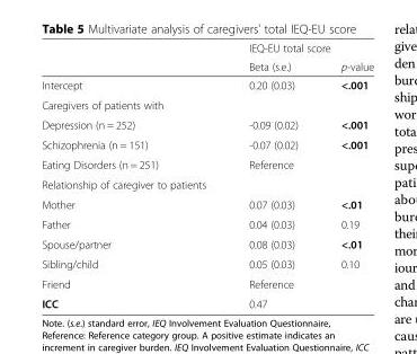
<table><thead><tr><td rowspan="2"></td><td colspan="2">IEQ-EU total score</td></tr><tr><td>Beta (s.e.)</td><td>p-value</td></tr></thead><tbody><tr><td>Intercept</td><td>0.20 (0.03)</td><td>&lt;.001</td></tr><tr><td colspan="3">Caregivers of patients with</td></tr><tr><td>Depression (n = 252)</td><td>-0.09 (0.02)</td><td>&lt;.001</td></tr><tr><td>Schizophrenia (n = 151)</td><td>-0.07 (0.02)</td><td>&lt;.001</td></tr><tr><td>Eating Disorders (n = 251)</td><td>Reference</td><td></td></tr><tr><td colspan="3">Relationship of caregiver to patients</td></tr><tr><td>Mother</td><td>0.07 (0.03)</td><td>&lt;.01</td></tr><tr><td>Father</td><td>0.04 (0.03)</td><td>0.19</td></tr><tr><td>Spouse/partner</td><td>0.08 (0.03)</td><td>&lt;.01</td></tr><tr><td>Sibling/child</td><td>0.05 (0.03)</td><td>0.10</td></tr><tr><td>Friend</td><td>Reference</td><td></td></tr><tr><td>ICC</td><td>0.47</td><td></td></tr></tbody></table>